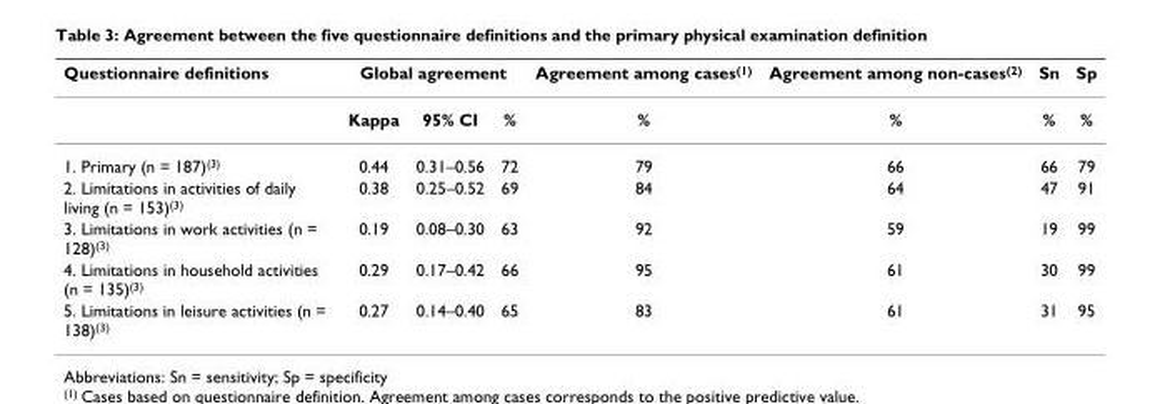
<table><thead><tr><td rowspan="2">Questionnaire definitions</td><td colspan="3">Global agreement</td><td rowspan="2">Agreement among cases(1) %</td><td rowspan="2">Agreement among non-cases(2) %</td><td rowspan="2">Sn %</td><td rowspan="2">Sp %</td></tr><tr><td>Kappa</td><td>95% CI</td><td>%</td></tr></thead><tbody><tr><td>1. Primary (n = 187)<sup>(3)</sup></td><td>0.44</td><td>0.31–0.56</td><td>72</td><td>79</td><td>66</td><td>66</td><td>79</td></tr><tr><td>2. Limitations in activities of daily living (n = 153)<sup>(3)</sup></td><td>0.38</td><td>0.25–0.52</td><td>69</td><td>84</td><td>64</td><td>47</td><td>91</td></tr><tr><td>3. Limitations in work activities (n = 128)<sup>(3)</sup></td><td>0.19</td><td>0.08–0.30</td><td>63</td><td>92</td><td>59</td><td>19</td><td>99</td></tr><tr><td>4. Limitations in household activities (n = 135)<sup>(3)</sup></td><td>0.29</td><td>0.17–0.42</td><td>66</td><td>95</td><td>61</td><td>30</td><td>99</td></tr><tr><td>5. Limitations in leisure activities (n = 138)<sup>(3)</sup></td><td>0.27</td><td>0.14–0.40</td><td>65</td><td>83</td><td>61</td><td>31</td><td>95</td></tr></tbody></table>